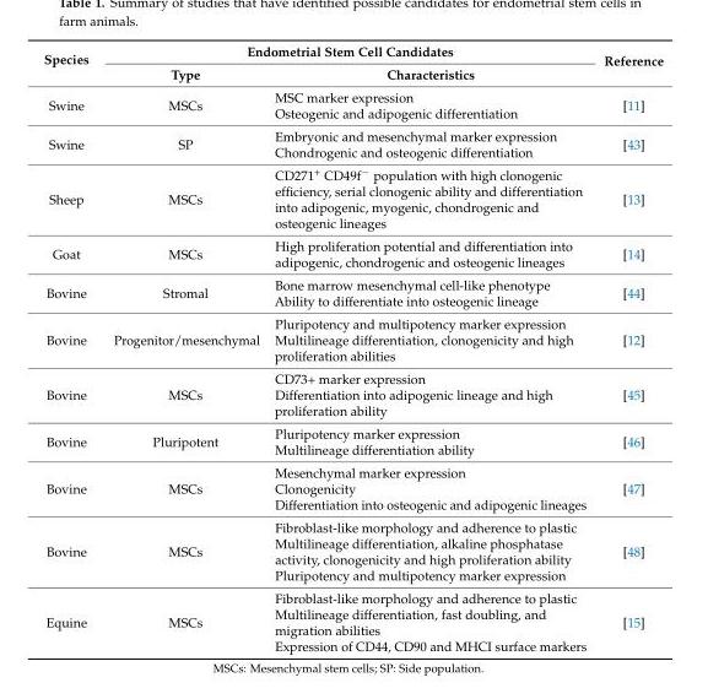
<table><thead><tr><td rowspan="2">Species</td><td colspan="2">Endometrial Stem Cell Candidates</td><td rowspan="2">Reference</td></tr><tr><td>Type</td><td>Characteristics</td></tr></thead><tbody><tr><td>Swine</td><td>MSCs</td><td>MSC marker expression Osteogenic and adipogenic differentiation</td><td>[11]</td></tr><tr><td>Swine</td><td>SP</td><td>Embryonic and mesenchymal marker expression Chondrogenic and osteogenic differentiation</td><td>[43]</td></tr><tr><td>Sheep</td><td>MSCs</td><td>CD271<sup>+</sup> CD49f<sup>−</sup> population with high clonogenic efficiency, serial clonogenic ability and differentiation into adipogenic, myogenic, chondrogenic and osteogenic lineages</td><td>[13]</td></tr><tr><td>Goat</td><td>MSCs</td><td>High proliferation potential and differentiation into adipogenic, chondrogenic and osteogenic lineages</td><td>[14]</td></tr><tr><td>Bovine</td><td>Stromal</td><td>Bone marrow mesenchymal cell-like phenotype Ability to differentiate into osteogenic lineage</td><td>[44]</td></tr><tr><td>Bovine</td><td>Progenitor/mesenchymal</td><td>Pluripotency and multipotency marker expression Multilineage differentiation, clonogenicity and high proliferation abilities</td><td>[12]</td></tr><tr><td>Bovine</td><td>MSCs</td><td>CD73+ marker expression Differentiation into adipogenic lineage and high proliferation ability</td><td>[45]</td></tr><tr><td>Bovine</td><td>Pluripotent</td><td>Pluripotency marker expression Multilineage differentiation ability</td><td>[46]</td></tr><tr><td>Bovine</td><td>MSCs</td><td>Mesenchymal marker expression Clonogenicity Differentiation into osteogenic and adipogenic lineages</td><td>[47]</td></tr><tr><td>Bovine</td><td>MSCs</td><td>Fibroblast-like morphology and adherence to plastic Multilineage differentiation, alkaline phosphatase activity, clonogenicity and high proliferation ability Pluripotency and multipotency marker expression</td><td>[48]</td></tr><tr><td>Equine</td><td>MSCs</td><td>Fibroblast-like morphology and adherence to plastic Multilineage differentiation, fast doubling, and migration abilities Expression of CD44, CD90 and MHCI surface markers</td><td>[15]</td></tr></tbody></table>